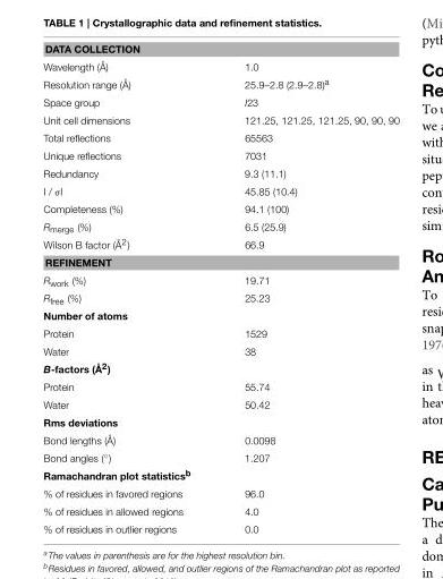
<table><tbody><tr><td colspan="2">DATA COLLECTION</td></tr><tr><td>Wavelength (Å)</td><td>1.0</td></tr><tr><td>Resolution range (Å)</td><td>25.9–2.8 (2.9–2.8)<sup>a</sup></td></tr><tr><td>Space group</td><td>I23</td></tr><tr><td>Unit cell dimensions</td><td>121.25, 121.25, 121.25, 90, 90, 90</td></tr><tr><td>Total reflections</td><td>65563</td></tr><tr><td>Unique reflections</td><td>7031</td></tr><tr><td>Redundancy</td><td>9.3 (11.1)</td></tr><tr><td>I / σI</td><td>45.85 (10.4)</td></tr><tr><td>Completeness (%)</td><td>94.1 (100)</td></tr><tr><td>R<sub>merge</sub> (%)</td><td>6.5 (25.9)</td></tr><tr><td>Wilson B factor (Å<sup>2</sup>)</td><td>66.9</td></tr><tr><td colspan="2">REFINEMENT</td></tr><tr><td>R<sub>work</sub> (%)</td><td>19.71</td></tr><tr><td>R<sub>free</sub> (%)</td><td>25.23</td></tr><tr><td colspan="2">Number of atoms</td></tr><tr><td>Protein</td><td>1529</td></tr><tr><td>Water</td><td>38</td></tr><tr><td colspan="2">B-factors (Å<sup>2</sup>)</td></tr><tr><td>Protein</td><td>55.74</td></tr><tr><td>Water</td><td>50.42</td></tr><tr><td colspan="2">Rms deviations</td></tr><tr><td>Bond lengths (Å)</td><td>0.0098</td></tr><tr><td>Bond angles (◦)</td><td>1.207</td></tr><tr><td colspan="2">Ramachandran plot statistics<sup>b</sup></td></tr><tr><td>% of residues in favored regions</td><td>96.0</td></tr><tr><td>% of residues in allowed regions</td><td>4.0</td></tr><tr><td>% of residues in outlier regions</td><td>0.0</td></tr></tbody></table>